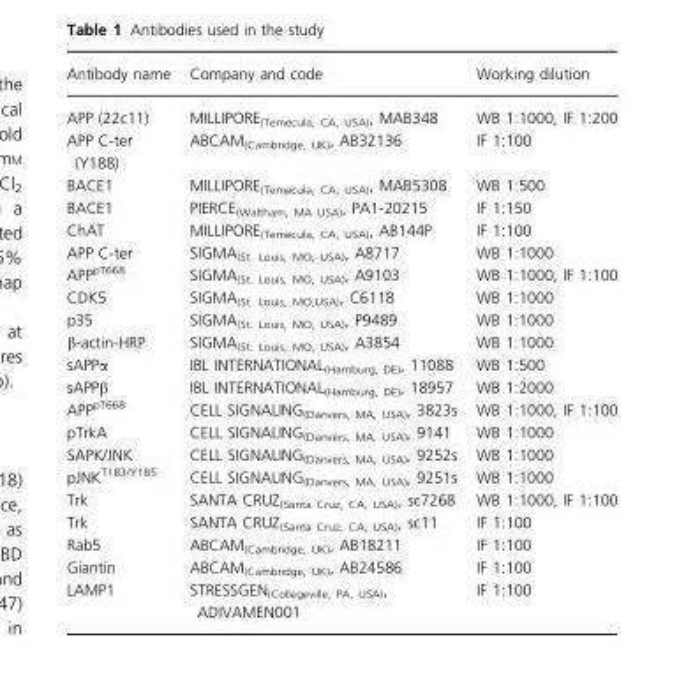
<table><thead><tr><td>Antibody name</td><td>Company and code</td><td>Working dilution</td></tr></thead><tbody><tr><td>APP (22c11)</td><td>MILLIPORE<sub>(Temecula, CA, USA)</sub>, MAB348</td><td>WB 1:1000, IF 1:200</td></tr><tr><td>APP C-ter (Y188)</td><td>ABCAM<sub>(Cambridge, UK)</sub>, AB32136</td><td>IF 1:100</td></tr><tr><td>BACE1</td><td>MILLIPORE<sub>(Temecula, CA, USA)</sub>, MAB5308</td><td>WB 1:500</td></tr><tr><td>BACE1</td><td>PIERCE<sub>(Waltham, MA USA)</sub>, PA1-20215</td><td>IF 1:150</td></tr><tr><td>ChAT</td><td>MILLIPORE<sub>(Temecula, CA, USA)</sub>, AB144P</td><td>IF 1:100</td></tr><tr><td>APP C-ter</td><td>SIGMA<sub>(St. Louis, MO, USA)</sub>, A8717</td><td>WB 1:1000</td></tr><tr><td>APP<sup>pT668</sup></td><td>SIGMA<sub>(St. Louis, MO, USA)</sub>, A9103</td><td>WB 1:1000, IF 1:100</td></tr><tr><td>CDK5</td><td>SIGMA<sub>(St. Louis, MO,USA)</sub>, C6118</td><td>WB 1:1000</td></tr><tr><td>p35</td><td>SIGMA<sub>(St. Louis, MO, USA)</sub>, P9489</td><td>WB 1:1000</td></tr><tr><td>β-actin-HRP</td><td>SIGMA<sub>(St. Louis, MO, USA)</sub>, A3854</td><td>WB 1:1000</td></tr><tr><td>sAPPα</td><td>IBL INTERNATIONAL<sub>(Hamburg, DE)</sub>, 11088</td><td>WB 1:500</td></tr><tr><td>sAPPβ</td><td>IBL INTERNATIONAL<sub>(Hamburg, DE)</sub>, 18957</td><td>WB 1:2000</td></tr><tr><td>APP<sup>pT668</sup></td><td>CELL SIGNALING<sub>(Danvers, MA, USA)</sub>, 3823s</td><td>WB 1:1000, IF 1:100</td></tr><tr><td>pTrkA</td><td>CELL SIGNALING<sub>(Danvers, MA, USA)</sub>, 9141</td><td>WB 1:1000</td></tr><tr><td>SAPK/JNK</td><td>CELL SIGNALING<sub>(Danvers, MA, USA)</sub>, 9252s</td><td>WB 1:1000</td></tr><tr><td>pJNK<sup>T183/Y185</sup></td><td>CELL SIGNALING<sub>(Danvers, MA, USA)</sub>, 9251s</td><td>WB 1:1000</td></tr><tr><td>Trk</td><td>SANTA CRUZ<sub>(Santa Cruz, CA, USA)</sub>, sc7268</td><td>WB 1:1000, IF 1:100</td></tr><tr><td>Trk</td><td>SANTA CRUZ<sub>(Santa Cruz, CA, USA)</sub>, sc11</td><td>IF 1:100</td></tr><tr><td>Rab5</td><td>ABCAM<sub>(Cambridge, UK)</sub>, AB18211</td><td>IF 1:100</td></tr><tr><td>Giantin</td><td>ABCAM<sub>(Cambridge, UK)</sub>, AB24586</td><td>IF 1:100</td></tr><tr><td>LAMP1</td><td>STRESSGEN<sub>(Collegeville, PA, USA)</sub>, ADIVAMEN001</td><td>IF 1:100</td></tr></tbody></table>